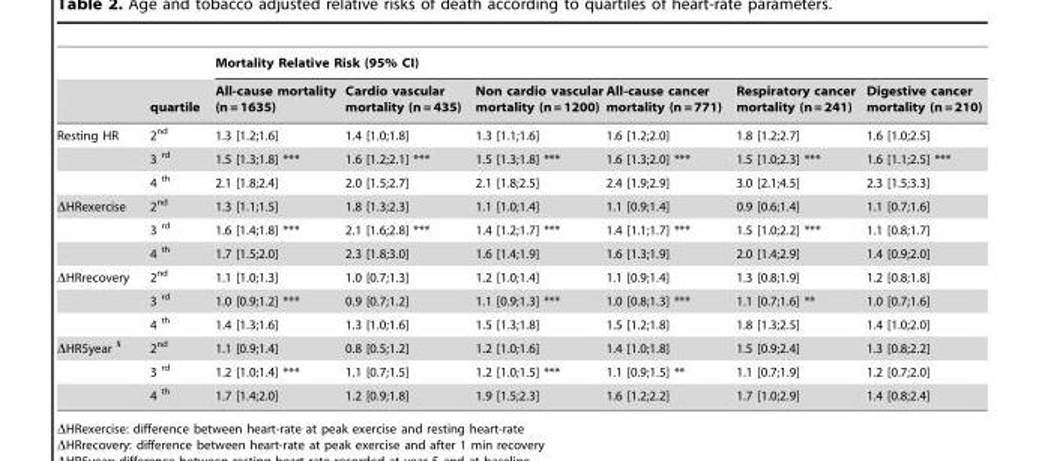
<table><thead><tr><td rowspan="2"></td><td rowspan="2">quartile</td><td colspan="6">Mortality Relative Risk (95% CI)</td></tr><tr><td>All-cause mortality (n = 1635)</td><td>Cardio vascular mortality (n = 435)</td><td>Non cardio vascular mortality (n = 1200)</td><td>All-cause cancer mortality (n = 771)</td><td>Respiratory cancer mortality (n = 241)</td><td>Digestive cancer mortality (n = 210)</td></tr></thead><tbody><tr><td rowspan="3">Resting HR</td><td>2<sup>nd</sup></td><td>1.3 [1.2;1.6]</td><td>1.4 [1.0;1.8]</td><td>1.3 [1.1;1.6]</td><td>1.6 [1.2;2.0]</td><td>1.8 [1.2;2.7]</td><td>1.6 [1.0;2.5]</td></tr><tr><td>3 <sup>rd</sup></td><td>1.5 [1.3;1.8] ***</td><td>1.6 [1.2;2.1] ***</td><td>1.5 [1.3;1.8] ***</td><td>1.6 [1.3;2.0] ***</td><td>1.5 [1.0;2.3] ***</td><td>1.6 [1.1;2.5] ***</td></tr><tr><td>4 <sup>th</sup></td><td>2.1 [1.8;2.4]</td><td>2.0 [1.5;2.7]</td><td>2.1 [1.8;2.5]</td><td>2.4 [1.9;2.9]</td><td>3.0 [2.1;4.5]</td><td>2.3 [1.5;3.3]</td></tr><tr><td rowspan="3">ΔHRexercise</td><td>2<sup>nd</sup></td><td>1.3 [1.1;1.5]</td><td>1.8 [1.3;2.3]</td><td>1.1 [1.0;1.4]</td><td>1.1 [0.9;1.4]</td><td>0.9 [0.6;1.4]</td><td>1.1 [0.7;1.6]</td></tr><tr><td>3 <sup>rd</sup></td><td>1.6 [1.4;1.8] ***</td><td>2.1 [1.6;2.8] ***</td><td>1.4 [1.2;1.7] ***</td><td>1.4 [1.1;1.7] ***</td><td>1.5 [1.0;2.2] ***</td><td>1.1 [0.8;1.7]</td></tr><tr><td>4 <sup>th</sup></td><td>1.7 [1.5;2.0]</td><td>2.3 [1.8;3.0]</td><td>1.6 [1.4;1.9]</td><td>1.6 [1.3;1.9]</td><td>2.0 [1.4;2.9]</td><td>1.4 [0.9;2.0]</td></tr><tr><td rowspan="3">ΔHRrecovery</td><td>2<sup>nd</sup></td><td>1.1 [1.0;1.3]</td><td>1.0 [0.7;1.3]</td><td>1.2 [1.0;1.4]</td><td>1.1 [0.9;1.4]</td><td>1.3 [0.8;1.9]</td><td>1.2 [0.8;1.8]</td></tr><tr><td>3 <sup>rd</sup></td><td>1.0 [0.9;1.2] ***</td><td>0.9 [0.7;1.2]</td><td>1.1 [0.9;1.3] ***</td><td>1.0 [0.8;1.3] ***</td><td>1.1 [0.7;1.6] **</td><td>1.0 [0.7;1.6]</td></tr><tr><td>4 <sup>th</sup></td><td>1.4 [1.3;1.6]</td><td>1.3 [1.0;1.6]</td><td>1.5 [1.3;1.8]</td><td>1.5 [1.2;1.8]</td><td>1.8 [1.3;2.5]</td><td>1.4 [1.0;2.0]</td></tr><tr><td rowspan="3">ΔHR5year §</td><td>2<sup>nd</sup></td><td>1.1 [0.9;1.4]</td><td>0.8 [0.5;1.2]</td><td>1.2 [1.0;1.6]</td><td>1.4 [1.0;1.8]</td><td>1.5 [0.9;2.4]</td><td>1.3 [0.8;2.2]</td></tr><tr><td>3 <sup>rd</sup></td><td>1.2 [1.0;1.4] ***</td><td>1.1 [0.7;1.5]</td><td>1.2 [1.0;1.5] ***</td><td>1.1 [0.9;1.5] **</td><td>1.1 [0.7;1.9]</td><td>1.2 [0.7;2.0]</td></tr><tr><td>4 <sup>th</sup></td><td>1.7 [1.4;2.0]</td><td>1.2 [0.9;1.8]</td><td>1.9 [1.5;2.3]</td><td>1.6 [1.2;2.2]</td><td>1.7 [1.0;2.9]</td><td>1.4 [0.8;2.4]</td></tr></tbody></table>